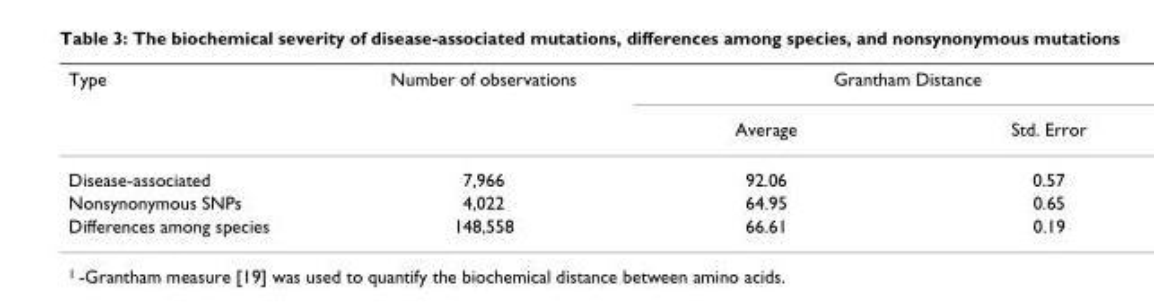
<table><thead><tr><td rowspan="2">Type</td><td rowspan="2">Number of observations</td><td colspan="2">Grantham Distance</td></tr><tr><td>Average</td><td>Std. Error</td></tr></thead><tbody><tr><td>Disease-associated</td><td>7,966</td><td>92.06</td><td>0.57</td></tr><tr><td>Nonsynonymous SNPs</td><td>4,022</td><td>64.95</td><td>0.65</td></tr><tr><td>Differences among species</td><td>148,558</td><td>66.61</td><td>0.19</td></tr></tbody></table>